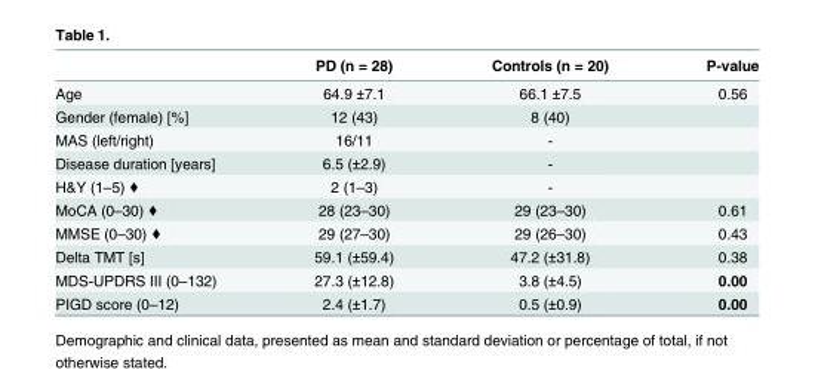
<table><thead><tr><td></td><td>PD (n = 28)</td><td>Controls (n = 20)</td><td>P-value</td></tr></thead><tbody><tr><td>Age</td><td>64.9 ±7.1</td><td>66.1 ±7.5</td><td>0.56</td></tr><tr><td>Gender (female) [%]</td><td>12 (43)</td><td>8 (40)</td><td></td></tr><tr><td>MAS (left/right)</td><td>16/11</td><td>-</td><td></td></tr><tr><td>Disease duration [years]</td><td>6.5 (±2.9)</td><td>-</td><td></td></tr><tr><td>H&amp;Y (1–5) ♦</td><td>2 (1–3)</td><td>-</td><td></td></tr><tr><td>MoCA (0–30) ♦</td><td>28 (23–30)</td><td>29 (23–30)</td><td>0.61</td></tr><tr><td>MMSE (0–30) ♦</td><td>29 (27–30)</td><td>29 (26–30)</td><td>0.43</td></tr><tr><td>Delta TMT [s]</td><td>59.1 (±59.4)</td><td>47.2 (±31.8)</td><td>0.38</td></tr><tr><td>MDS-UPDRS III (0–132)</td><td>27.3 (±12.8)</td><td>3.8 (±4.5)</td><td>0.00</td></tr><tr><td>PIGD score (0–12)</td><td>2.4 (±1.7)</td><td>0.5 (±0.9)</td><td>0.00</td></tr></tbody></table>